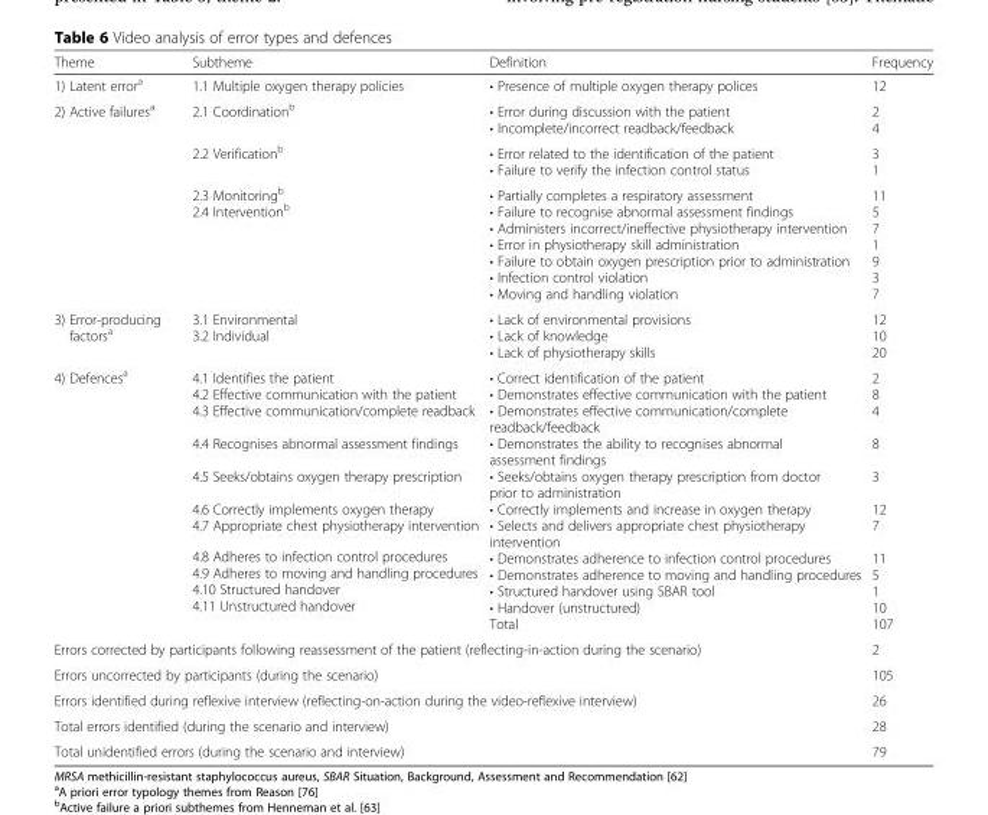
<table><thead><tr><td>Theme</td><td>Subtheme</td><td>Definition</td><td>Frequency</td></tr></thead><tbody><tr><td>1) Latent error<sup>a</sup></td><td>1.1 Multiple oxygen therapy policies</td><td>• Presence of multiple oxygen therapy polices</td><td>12</td></tr><tr><td rowspan="3">2) Active failures<sup>a</sup></td><td>2.1 Coordination<sup>b</sup></td><td>• Error during discussion with the patient • Incomplete/incorrect readback/feedback</td><td>2 4</td></tr><tr><td>2.2 Verification<sup>b</sup></td><td>• Error related to the identification of the patient • Failure to verify the infection control status</td><td>3 1</td></tr><tr><td>2.3 Monitoring<sup>b</sup> 2.4 Intervention<sup>b</sup></td><td>• Partially completes a respiratory assessment • Failure to recognise abnormal assessment findings • Administers incorrect/ineffective physiotherapy intervention • Error in physiotherapy skill administration • Failure to obtain oxygen prescription prior to administration • Infection control violation • Moving and handling violation</td><td>11 5 7 1 9 3 7</td></tr><tr><td>3) Error-producing factors<sup>a</sup></td><td>3.1 Environmental 3.2 Individual</td><td>• Lack of environmental provisions • Lack of knowledge • Lack of physiotherapy skills</td><td>12 10 20</td></tr><tr><td>4) Defences<sup>a</sup></td><td>4.1 Identifies the patient 4.2 Effective communication with the patient 4.3 Effective communication/complete readback 4.4 Recognises abnormal assessment findings 4.5 Seeks/obtains oxygen therapy prescription 4.6 Correctly implements oxygen therapy 4.7 Appropriate chest physiotherapy intervention 4.8 Adheres to infection control procedures 4.9 Adheres to moving and handling procedures 4.10 Structured handover 4.11 Unstructured handover</td><td>• Correct identification of the patient • Demonstrates effective communication with the patient • Demonstrates effective communication/complete readback/feedback • Demonstrates the ability to recognises abnormal assessment findings • Seeks/obtains oxygen therapy prescription from doctor prior to administration • Correctly implements and increase in oxygen therapy • Selects and delivers appropriate chest physiotherapy intervention • Demonstrates adherence to infection control procedures • Demonstrates adherence to moving and handling procedures • Structured handover using SBAR tool • Handover (unstructured) Total</td><td>2 8 4 8 3 12 7 11 5 1 10 107</td></tr><tr><td colspan="3">Errors corrected by participants following reassessment of the patient (reflecting-in-action during the scenario)</td><td>2</td></tr><tr><td colspan="3">Errors uncorrected by participants (during the scenario)</td><td>105</td></tr><tr><td colspan="3">Errors identified during reflexive interview (reflecting-on-action during the video-reflexive interview)</td><td>26</td></tr><tr><td colspan="3">Total errors identified (during the scenario and interview)</td><td>28</td></tr><tr><td colspan="3">Total unidentified errors (during the scenario and interview)</td><td>79</td></tr></tbody></table>